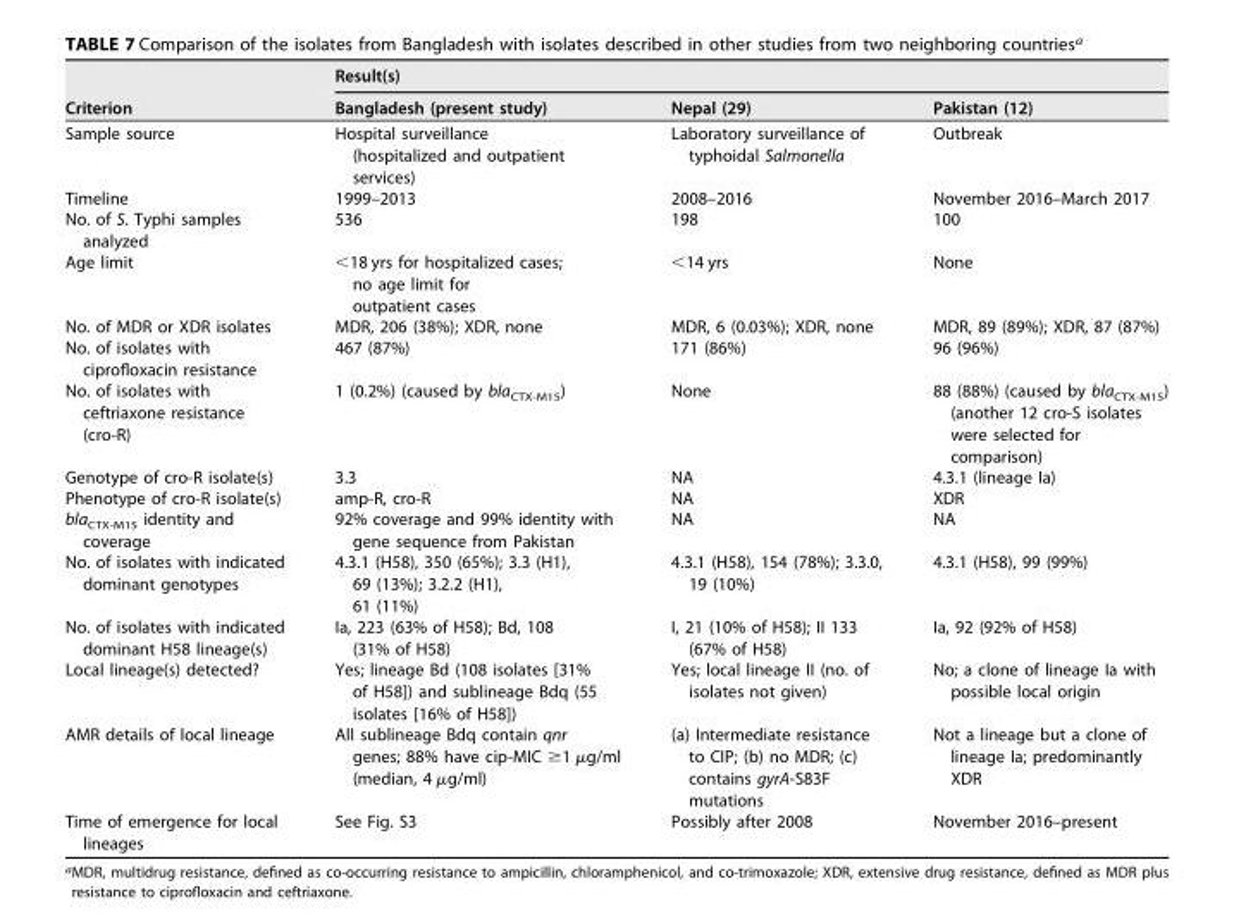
<table><thead><tr><td rowspan="2">Criterion</td><td colspan="3">Result(s)</td></tr><tr><td>Bangladesh (present study)</td><td>Nepal (29)</td><td>Pakistan (12)</td></tr></thead><tbody><tr><td>Sample source</td><td>Hospital surveillance (hospitalized and outpatient services)</td><td>Laboratory surveillance of typhoidal Salmonella</td><td>Outbreak</td></tr><tr><td>Timeline</td><td>1999–2013</td><td>2008–2016</td><td>November 2016–March 2017</td></tr><tr><td>No. of S. Typhi samples analyzed</td><td>536</td><td>198</td><td>100</td></tr><tr><td>Age limit</td><td>&lt;18 yrs for hospitalized cases; no age limit for outpatient cases</td><td>&lt;14 yrs</td><td>None</td></tr><tr><td>No. of MDR or XDR isolates</td><td>MDR, 206 (38%); XDR, none</td><td>MDR, 6 (0.03%); XDR, none</td><td>MDR, 89 (89%); XDR, 87 (87%)</td></tr><tr><td>No. of isolates with ciprofloxacin resistance</td><td>467 (87%)</td><td>171 (86%)</td><td>96 (96%)</td></tr><tr><td>No. of isolates with ceftriaxone resistance (cro-R)</td><td>1 (0.2%) (caused by bla<sub>CTX-M15</sub>)</td><td>None</td><td>88 (88%) (caused by bla<sub>CTX-M15</sub>) (another 12 cro-S isolates were selected for comparison)</td></tr><tr><td>Genotype of cro-R isolate(s)</td><td>3.3</td><td>NA</td><td>4.3.1 (lineage Ia)</td></tr><tr><td>Phenotype of cro-R isolate(s)</td><td>amp-R, cro-R</td><td>NA</td><td>XDR</td></tr><tr><td>bla<sub>CTX-M15</sub> identity and coverage</td><td>92% coverage and 99% identity with gene sequence from Pakistan</td><td>NA</td><td>NA</td></tr><tr><td>No. of isolates with indicated dominant genotypes</td><td>4.3.1 (H58), 350 (65%); 3.3 (H1), 69 (13%); 3.2.2 (H1), 61 (11%)</td><td>4.3.1 (H58), 154 (78%); 3.3.0, 19 (10%)</td><td>4.3.1 (H58), 99 (99%)</td></tr><tr><td>No. of isolates with indicated dominant H58 lineage(s)</td><td>Ia, 223 (63% of H58); Bd, 108 (31% of H58)</td><td>I, 21 (10% of H58); II 133 (67% of H58)</td><td>Ia, 92 (92% of H58)</td></tr><tr><td>Local lineage(s) detected?</td><td>Yes; lineage Bd (108 isolates [31% of H58]) and sublineage Bdq (55 isolates [16% of H58])</td><td>Yes; local lineage II (no. of isolates not given)</td><td>No; a clone of lineage Ia with possible local origin</td></tr><tr><td>AMR details of local lineage</td><td>All sublineage Bdq contain qnr genes; 88% have cip-MIC ≥1 µg/ml (median, 4 µg/ml)</td><td>(a) Intermediate resistance to CIP; (b) no MDR; (c) contains gyrA-S83F mutations</td><td>Not a lineage but a clone of lineage Ia; predominantly XDR</td></tr><tr><td>Time of emergence for local lineages</td><td>See Fig. S3</td><td>Possibly after 2008</td><td>November 2016–present</td></tr></tbody></table>